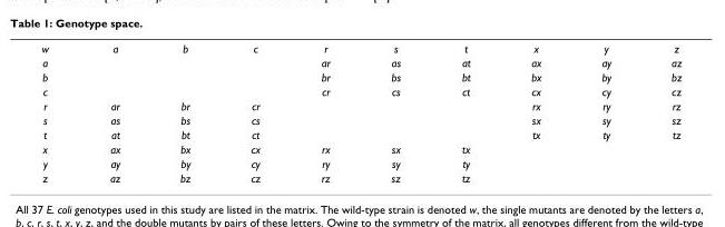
<table><tbody><tr><td>w</td><td>a</td><td>b</td><td>c</td><td>r</td><td>s</td><td>t</td><td>x</td><td>y</td><td>z</td></tr><tr><td>a</td><td></td><td></td><td></td><td>ar</td><td>as</td><td>at</td><td>ax</td><td>ay</td><td>az</td></tr><tr><td>b</td><td></td><td></td><td></td><td>br</td><td>bs</td><td>bt</td><td>bx</td><td>by</td><td>bz</td></tr><tr><td>c</td><td></td><td></td><td></td><td>cr</td><td>cs</td><td>ct</td><td>cx</td><td>cy</td><td>cz</td></tr><tr><td>r</td><td>ar</td><td>br</td><td>cr</td><td></td><td></td><td></td><td>rx</td><td>ry</td><td>rz</td></tr><tr><td>s</td><td>as</td><td>bs</td><td>cs</td><td></td><td></td><td></td><td>sx</td><td>sy</td><td>sz</td></tr><tr><td>t</td><td>at</td><td>bt</td><td>ct</td><td></td><td></td><td></td><td>tx</td><td>ty</td><td>tz</td></tr><tr><td>x</td><td>ax</td><td>bx</td><td>cx</td><td>rx</td><td>sx</td><td>tx</td><td></td><td></td><td></td></tr><tr><td>y</td><td>ay</td><td>by</td><td>cy</td><td>ry</td><td>sy</td><td>ty</td><td></td><td></td><td></td></tr><tr><td>z</td><td>az</td><td>bz</td><td>cz</td><td>rz</td><td>sz</td><td>tz</td><td></td><td></td><td></td></tr></tbody></table>